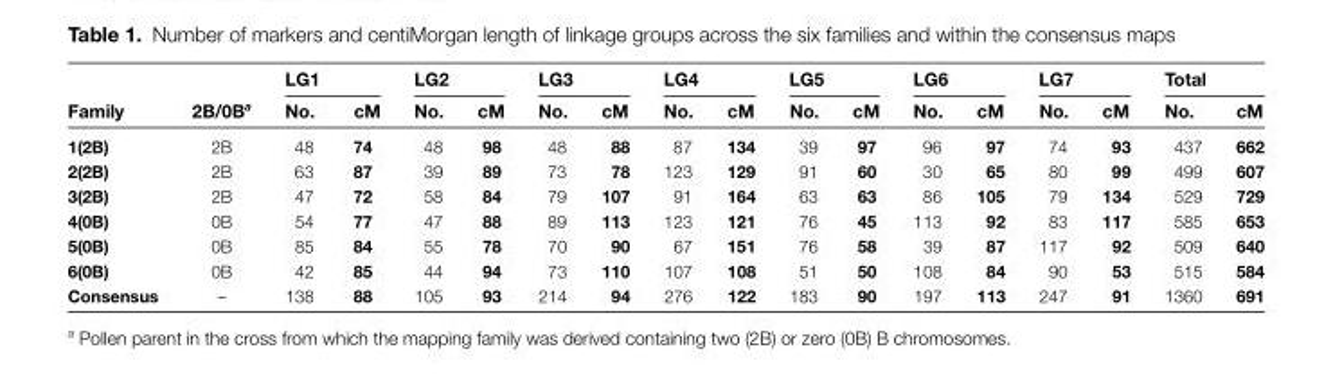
<table><thead><tr><td rowspan="2">Family</td><td rowspan="2">2B/0B<sup>a</sup></td><td colspan="2">LG1</td><td colspan="2">LG2</td><td colspan="2">LG3</td><td colspan="2">LG4</td><td colspan="2">LG5</td><td colspan="2">LG6</td><td colspan="2">LG7</td><td colspan="2">Total</td></tr><tr><td>No.</td><td>cM</td><td>No.</td><td>cM</td><td>No.</td><td>cM</td><td>No.</td><td>cM</td><td>No.</td><td>cM</td><td>No.</td><td>cM</td><td>No.</td><td>cM</td><td>No.</td><td>cM</td></tr></thead><tbody><tr><td>1(2B)</td><td>2B</td><td>48</td><td>74</td><td>48</td><td>98</td><td>48</td><td>88</td><td>87</td><td>134</td><td>39</td><td>97</td><td>96</td><td>97</td><td>74</td><td>93</td><td>437</td><td>662</td></tr><tr><td>2(2B)</td><td>2B</td><td>63</td><td>87</td><td>39</td><td>89</td><td>73</td><td>78</td><td>123</td><td>129</td><td>91</td><td>60</td><td>30</td><td>65</td><td>80</td><td>99</td><td>499</td><td>607</td></tr><tr><td>3(2B)</td><td>2B</td><td>47</td><td>72</td><td>58</td><td>84</td><td>79</td><td>107</td><td>91</td><td>164</td><td>63</td><td>63</td><td>86</td><td>105</td><td>79</td><td>134</td><td>529</td><td>729</td></tr><tr><td>4(0B)</td><td>0B</td><td>54</td><td>77</td><td>47</td><td>88</td><td>89</td><td>113</td><td>123</td><td>121</td><td>76</td><td>45</td><td>113</td><td>92</td><td>83</td><td>117</td><td>585</td><td>653</td></tr><tr><td>5(0B)</td><td>0B</td><td>85</td><td>84</td><td>55</td><td>78</td><td>70</td><td>90</td><td>67</td><td>151</td><td>76</td><td>58</td><td>39</td><td>87</td><td>117</td><td>92</td><td>509</td><td>640</td></tr><tr><td>6(0B)</td><td>0B</td><td>42</td><td>85</td><td>44</td><td>94</td><td>73</td><td>110</td><td>107</td><td>108</td><td>51</td><td>50</td><td>108</td><td>84</td><td>90</td><td>53</td><td>515</td><td>584</td></tr><tr><td>Consensus</td><td>–</td><td>138</td><td>88</td><td>105</td><td>93</td><td>214</td><td>94</td><td>276</td><td>122</td><td>183</td><td>90</td><td>197</td><td>113</td><td>247</td><td>91</td><td>1360</td><td>691</td></tr></tbody></table>